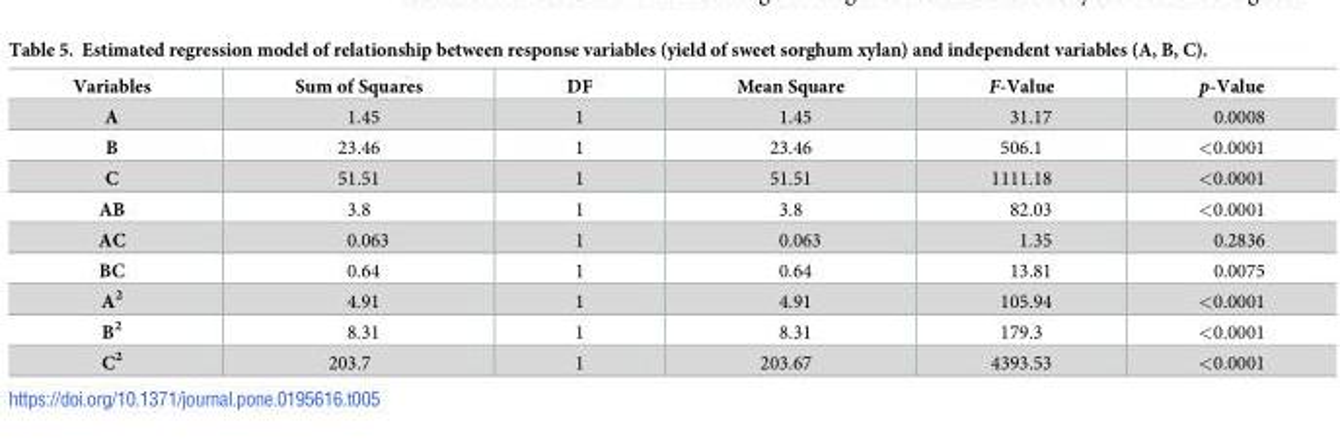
<table><thead><tr><td>Variables</td><td>Sum of Squares</td><td>DF</td><td>Mean Square</td><td>F-Value</td><td>p-Value</td></tr></thead><tbody><tr><td>A</td><td>1.45</td><td>1</td><td>1.45</td><td>31.17</td><td>0.0008</td></tr><tr><td>B</td><td>23.46</td><td>1</td><td>23.46</td><td>506.1</td><td>&lt;0.0001</td></tr><tr><td>C</td><td>51.51</td><td>1</td><td>51.51</td><td>1111.18</td><td>&lt;0.0001</td></tr><tr><td>AB</td><td>3.8</td><td>1</td><td>3.8</td><td>82.03</td><td>&lt;0.0001</td></tr><tr><td>AC</td><td>0.063</td><td>1</td><td>0.063</td><td>1.35</td><td>0.2836</td></tr><tr><td>BC</td><td>0.64</td><td>1</td><td>0.64</td><td>13.81</td><td>0.0075</td></tr><tr><td>A<sup>2</sup></td><td>4.91</td><td>1</td><td>4.91</td><td>105.94</td><td>&lt;0.0001</td></tr><tr><td>B<sup>2</sup></td><td>8.31</td><td>1</td><td>8.31</td><td>179.3</td><td>&lt;0.0001</td></tr><tr><td>C<sup>2</sup></td><td>203.7</td><td>1</td><td>203.67</td><td>4393.53</td><td>&lt;0.0001</td></tr></tbody></table>